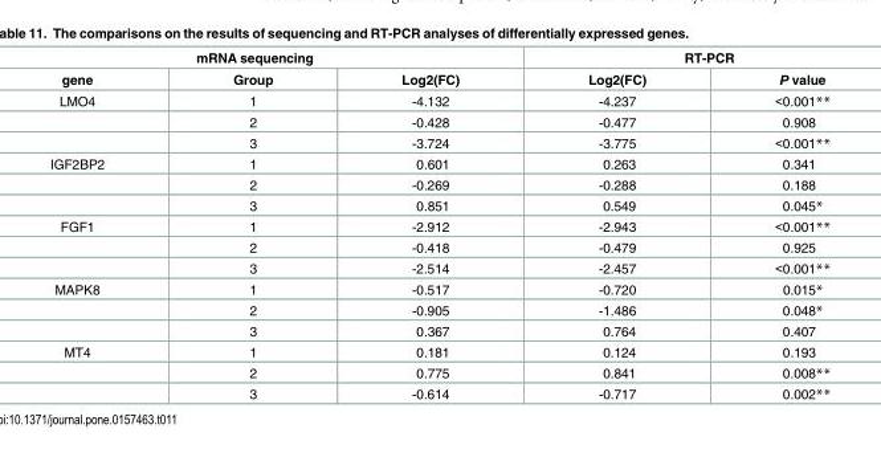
<table><thead><tr><td colspan="3">mRNA sequencing</td><td colspan="2">RT-PCR</td></tr><tr><td>gene</td><td>Group</td><td>Log2(FC)</td><td>Log2(FC)</td><td>P value</td></tr></thead><tbody><tr><td rowspan="3">LMO4</td><td>1</td><td>-4.132</td><td>-4.237</td><td>&lt;0.001**</td></tr><tr><td>2</td><td>-0.428</td><td>-0.477</td><td>0.908</td></tr><tr><td>3</td><td>-3.724</td><td>-3.775</td><td>&lt;0.001**</td></tr><tr><td rowspan="3">IGF2BP2</td><td>1</td><td>0.601</td><td>0.263</td><td>0.341</td></tr><tr><td>2</td><td>-0.269</td><td>-0.288</td><td>0.188</td></tr><tr><td>3</td><td>0.851</td><td>0.549</td><td>0.045*</td></tr><tr><td rowspan="3">FGF1</td><td>1</td><td>-2.912</td><td>-2.943</td><td>&lt;0.001**</td></tr><tr><td>2</td><td>-0.418</td><td>-0.479</td><td>0.925</td></tr><tr><td>3</td><td>-2.514</td><td>-2.457</td><td>&lt;0.001**</td></tr><tr><td rowspan="3">MAPK8</td><td>1</td><td>-0.517</td><td>-0.720</td><td>0.015*</td></tr><tr><td>2</td><td>-0.905</td><td>-1.486</td><td>0.048*</td></tr><tr><td>3</td><td>0.367</td><td>0.764</td><td>0.407</td></tr><tr><td rowspan="3">MT4</td><td>1</td><td>0.181</td><td>0.124</td><td>0.193</td></tr><tr><td>2</td><td>0.775</td><td>0.841</td><td>0.008**</td></tr><tr><td>3</td><td>-0.614</td><td>-0.717</td><td>0.002**</td></tr></tbody></table>